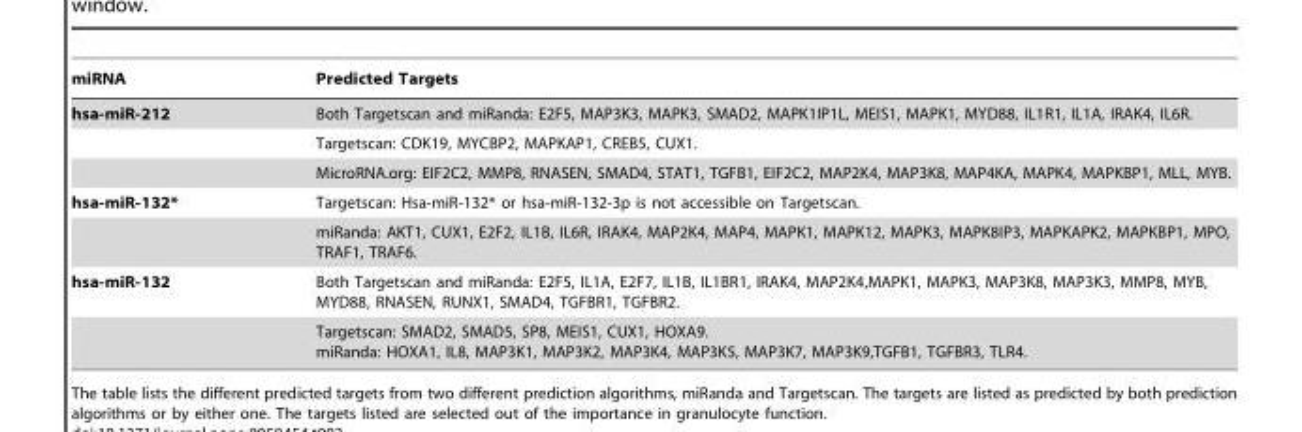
<table><thead><tr><td>miRNA</td><td>Predicted Targets</td></tr></thead><tbody><tr><td rowspan="3">hsa-miR-212</td><td>Both Targetscan and miRanda: E2F5, MAP3K3, MAPK3, SMAD2, MAPK1IP1L, MEIS1, MAPK1, MYD88, IL1R1, IL1A, IRAK4, IL6R.</td></tr><tr><td>Targetscan: CDK19, MYCBP2, MAPKAP1, CREB5, CUX1.</td></tr><tr><td>MicroRNA.org: EIF2C2, MMP8, RNASEN, SMAD4, STAT1, TGFB1, EIF2C2, MAP2K4, MAP3K8, MAP4KA, MAPK4, MAPKBP1, MLL, MYB.</td></tr><tr><td rowspan="2">hsa-miR-132*</td><td>Targetscan: Hsa-miR-132* or hsa-miR-132-3p is not accessible on Targetscan.</td></tr><tr><td>miRanda: AKT1, CUX1, E2F2, IL1B, IL6R, IRAK4, MAP2K4, MAP4, MAPK1, MAPK12, MAPK3, MAPK8IP3, MAPKAPK2, MAPKBP1, MPO, TRAF1, TRAF6.</td></tr><tr><td rowspan="2">hsa-miR-132</td><td>Both Targetscan and miRanda: E2F5, IL1A, E2F7, IL1B, IL1BR1, IRAK4, MAP2K4,MAPK1, MAPK3, MAP3K8, MAP3K3, MMP8, MYB, MYD88, RNASEN, RUNX1, SMAD4, TGFBR1, TGFBR2.</td></tr><tr><td>Targetscan: SMAD2, SMAD5, SP8, MEIS1, CUX1, HOXA9. miRanda: HOXA1, IL8, MAP3K1, MAP3K2, MAP3K4, MAP3K5, MAP3K7, MAP3K9,TGFB1, TGFBR3, TLR4.</td></tr></tbody></table>